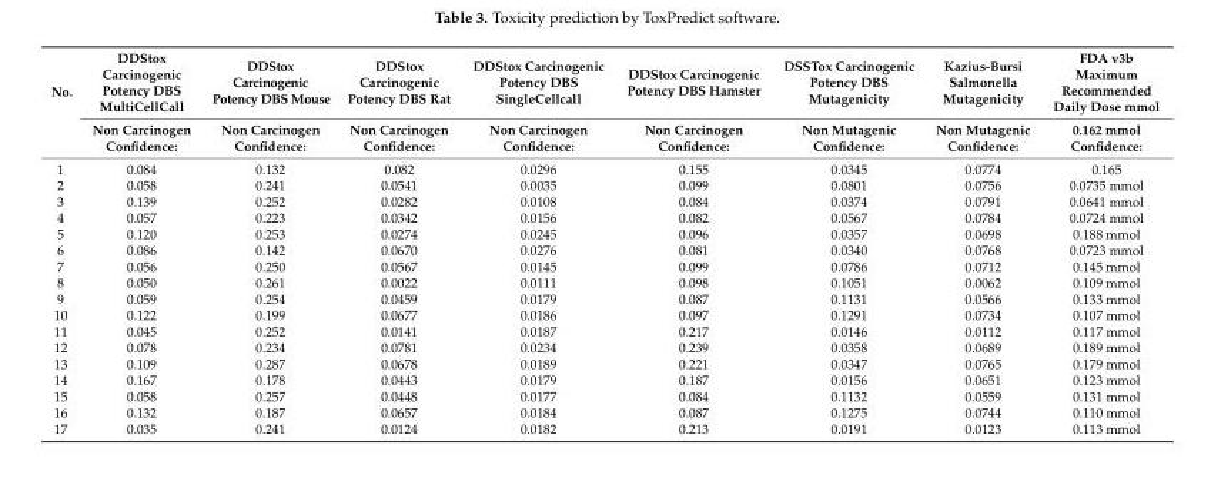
<table><thead><tr><td rowspan="2">No.</td><td rowspan="2">DDStox Carcinogenic Potency DBS MultiCellCall Non Carcinogen Confidence:</td><td rowspan="2">DDStox Carcinogenic Potency DBS Mouse Non Carcinogen Confidence:</td><td rowspan="2">DDStox Carcinogenic Potency DBS Rat Non Carcinogen Confidence:</td><td rowspan="2">DDStox Carcinogenic Potency DBS SingleCellcall Non Carcinogen Confidence:</td><td rowspan="2">DDStox Carcinogenic Potency DBS Hamster Non Carcinogen Confidence:</td><td rowspan="2">DSSTox Carcinogenic Potency DBS Mutagenicity Non Mutagenic Confidence:</td><td rowspan="2">Kazius-Bursi Salmonella Mutagenicity Non Mutagenic Confidence:</td><td rowspan="2">FDA v3b Maximum Recommended Daily Dose mmol 0.162 mmol Confidence:</td></tr><tr></tr></thead><tbody><tr><td>1</td><td>0.084</td><td>0.132</td><td>0.082</td><td>0.0296</td><td>0.155</td><td>0.0345</td><td>0.0774</td><td>0.165</td></tr><tr><td>2</td><td>0.058</td><td>0.241</td><td>0.0541</td><td>0.0035</td><td>0.099</td><td>0.0801</td><td>0.0756</td><td>0.0735 mmol</td></tr><tr><td>3</td><td>0.139</td><td>0.252</td><td>0.0282</td><td>0.0108</td><td>0.084</td><td>0.0374</td><td>0.0791</td><td>0.0641 mmol</td></tr><tr><td>4</td><td>0.057</td><td>0.223</td><td>0.0342</td><td>0.0156</td><td>0.082</td><td>0.0567</td><td>0.0784</td><td>0.0724 mmol</td></tr><tr><td>5</td><td>0.120</td><td>0.253</td><td>0.0274</td><td>0.0245</td><td>0.096</td><td>0.0357</td><td>0.0698</td><td>0.188 mmol</td></tr><tr><td>6</td><td>0.086</td><td>0.142</td><td>0.0670</td><td>0.0276</td><td>0.081</td><td>0.0340</td><td>0.0768</td><td>0.0723 mmol</td></tr><tr><td>7</td><td>0.056</td><td>0.250</td><td>0.0567</td><td>0.0145</td><td>0.099</td><td>0.0786</td><td>0.0712</td><td>0.145 mmol</td></tr><tr><td>8</td><td>0.050</td><td>0.261</td><td>0.0022</td><td>0.0111</td><td>0.098</td><td>0.1051</td><td>0.0062</td><td>0.109 mmol</td></tr><tr><td>9</td><td>0.059</td><td>0.254</td><td>0.0459</td><td>0.0179</td><td>0.087</td><td>0.1131</td><td>0.0566</td><td>0.133 mmol</td></tr><tr><td>10</td><td>0.122</td><td>0.199</td><td>0.0677</td><td>0.0186</td><td>0.097</td><td>0.1291</td><td>0.0734</td><td>0.107 mmol</td></tr><tr><td>11</td><td>0.045</td><td>0.252</td><td>0.0141</td><td>0.0187</td><td>0.217</td><td>0.0146</td><td>0.0112</td><td>0.117 mmol</td></tr><tr><td>12</td><td>0.078</td><td>0.234</td><td>0.0781</td><td>0.0234</td><td>0.239</td><td>0.0358</td><td>0.0689</td><td>0.189 mmol</td></tr><tr><td>13</td><td>0.109</td><td>0.287</td><td>0.0678</td><td>0.0189</td><td>0.221</td><td>0.0347</td><td>0.0765</td><td>0.179 mmol</td></tr><tr><td>14</td><td>0.167</td><td>0.178</td><td>0.0443</td><td>0.0179</td><td>0.187</td><td>0.0156</td><td>0.0651</td><td>0.123 mmol</td></tr><tr><td>15</td><td>0.058</td><td>0.257</td><td>0.0448</td><td>0.0177</td><td>0.084</td><td>0.1132</td><td>0.0559</td><td>0.131 mmol</td></tr><tr><td>16</td><td>0.132</td><td>0.187</td><td>0.0657</td><td>0.0184</td><td>0.087</td><td>0.1275</td><td>0.0744</td><td>0.110 mmol</td></tr><tr><td>17</td><td>0.035</td><td>0.241</td><td>0.0124</td><td>0.0182</td><td>0.213</td><td>0.0191</td><td>0.0123</td><td>0.113 mmol</td></tr></tbody></table>